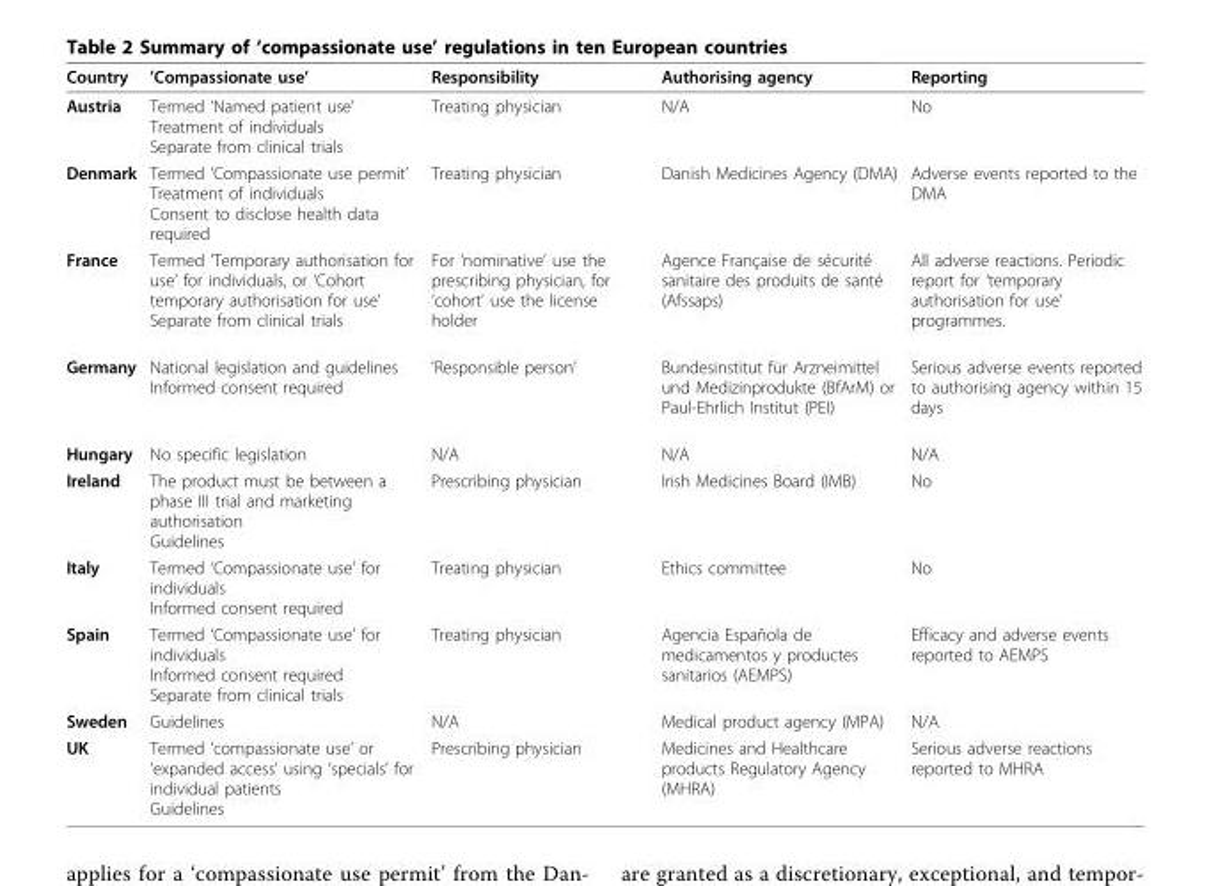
<table><thead><tr><td>Country</td><td>’Compassionate use’</td><td>Responsibility</td><td>Authorising agency</td><td>Reporting</td></tr></thead><tbody><tr><td>Austria</td><td>Termed ‘Named patient use’ Treatment of individuals Separate from clinical trials</td><td>Treating physician</td><td>N/A</td><td>No</td></tr><tr><td>Denmark</td><td>Termed ‘Compassionate use permit’ Treatment of individuals Consent to disclose health data required</td><td>Treating physician</td><td>Danish Medicines Agency (DMA)</td><td>Adverse events reported to the DMA</td></tr><tr><td>France</td><td>Termed ‘Temporary authorisation for use’ for individuals, or ‘Cohort temporary authorisation for use’ Separate from clinical trials</td><td>For ‘nominative’ use the prescribing physician, for ‘cohort’ use the license holder</td><td>Agence Française de sécurité sanitaire des produits de santé (Afssaps)</td><td>All adverse reactions. Periodic report for ‘temporary authorisation for use’ programmes.</td></tr><tr><td>Germany</td><td>National legislation and guidelines Informed consent required</td><td>’Responsible person’</td><td>Bundesinstitut für Arzneimittel und Medizinprodukte (BfArM) or Paul-Ehrlich Institut (PEI)</td><td>Serious adverse events reported to authorising agency within 15 days</td></tr><tr><td>Hungary</td><td>No specific legislation</td><td>N/A</td><td>N/A</td><td>N/A</td></tr><tr><td>Ireland</td><td>The product must be between a phase III trial and marketing authorisation Guidelines</td><td>Prescribing physician</td><td>Irish Medicines Board (IMB)</td><td>No</td></tr><tr><td>Italy</td><td>Termed ‘Compassionate use’ for individuals Informed consent required</td><td>Treating physician</td><td>Ethics committee</td><td>No</td></tr><tr><td>Spain</td><td>Termed ‘Compassionate use’ for individuals Informed consent required Separate from clinical trials</td><td>Treating physician</td><td>Agencia Española de medicamentos y productes sanitarios (AEMPS)</td><td>Efficacy and adverse events reported to AEMPS</td></tr><tr><td>Sweden</td><td>Guidelines</td><td>N/A</td><td>Medical product agency (MPA)</td><td>N/A</td></tr><tr><td>UK</td><td>Termed ‘compassionate use’ or ‘expanded access’ using ‘specials’ for individual patients Guidelines</td><td>Prescribing physician</td><td>Medicines and Healthcare products Regulatory Agency (MHRA)</td><td>Serious adverse reactions reported to MHRA</td></tr></tbody></table>